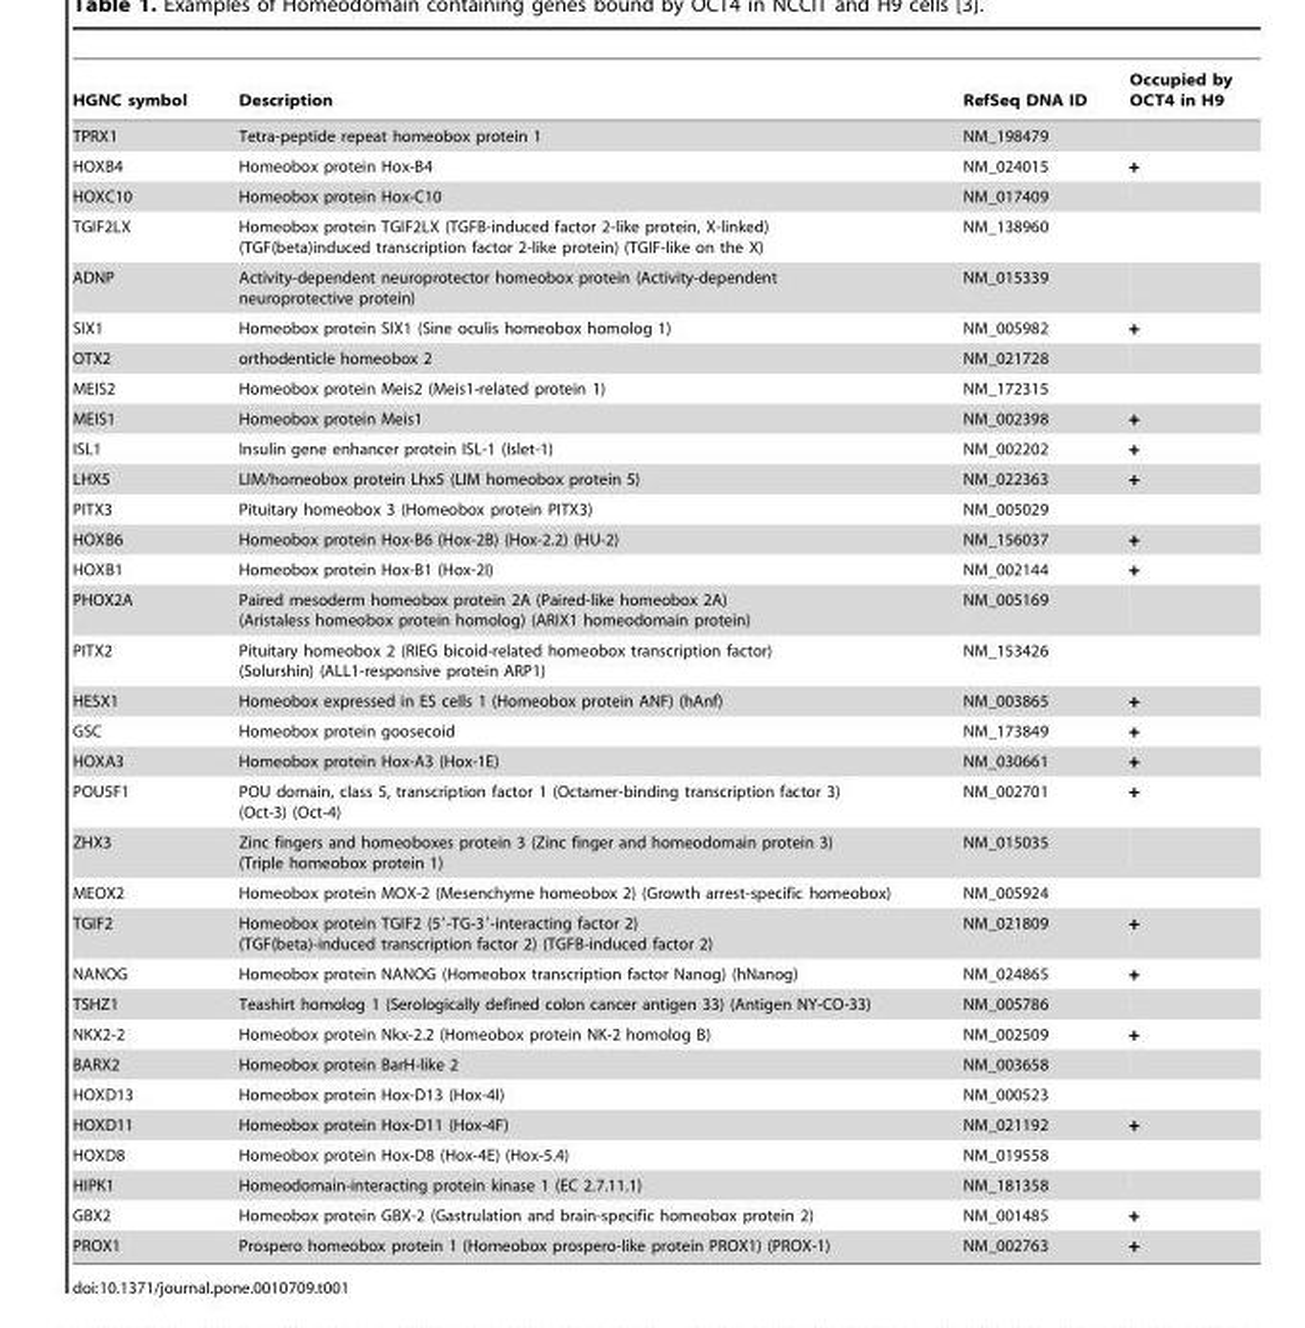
<table><thead><tr><td>HGNC symbol</td><td>Description</td><td>RefSeq DNA ID</td><td>Occupied by OCT4 in H9</td></tr></thead><tbody><tr><td>TPRX1</td><td>Tetra-peptide repeat homeobox protein 1</td><td>NM_198479</td><td></td></tr><tr><td>HOXB4</td><td>Homeobox protein Hox-B4</td><td>NM_024015</td><td>+</td></tr><tr><td>HOXC10</td><td>Homeobox protein Hox-C10</td><td>NM_017409</td><td></td></tr><tr><td>TGIF2LX</td><td>Homeobox protein TGIF2LX (TGFB-induced factor 2-like protein, X-linked) (TGF(beta)induced transcription factor 2-like protein) (TGIF-like on the X)</td><td>NM_138960</td><td></td></tr><tr><td>ADNP</td><td>Activity-dependent neuroprotector homeobox protein (Activity-dependent neuroprotective protein)</td><td>NM_015339</td><td></td></tr><tr><td>SIX1</td><td>Homeobox protein SIX1 (Sine oculis homeobox homolog 1)</td><td>NM_005982</td><td>+</td></tr><tr><td>OTX2</td><td>orthodenticle homeobox 2</td><td>NM_021728</td><td></td></tr><tr><td>MEIS2</td><td>Homeobox protein Meis2 (Meis1-related protein 1)</td><td>NM_172315</td><td></td></tr><tr><td>MEIS1</td><td>Homeobox protein Meis1</td><td>NM_002398</td><td>+</td></tr><tr><td>ISL1</td><td>Insulin gene enhancer protein ISL-1 (Islet-1)</td><td>NM_002202</td><td>+</td></tr><tr><td>LHX5</td><td>LIM/homeobox protein Lhx5 (LIM homeobox protein 5)</td><td>NM_022363</td><td>+</td></tr><tr><td>PITX3</td><td>Pituitary homeobox 3 (Homeobox protein PITX3)</td><td>NM_005029</td><td></td></tr><tr><td>HOXB6</td><td>Homeobox protein Hox-B6 (Hox-2B) (Hox-2.2) (HU-2)</td><td>NM_156037</td><td>+</td></tr><tr><td>HOXB1</td><td>Homeobox protein Hox-B1 (Hox-2I)</td><td>NM_002144</td><td>+</td></tr><tr><td>PHOX2A</td><td>Paired mesoderm homeobox protein 2A (Paired-like homeobox 2A) (Aristaless homeobox protein homolog) (ARIX1 homeodomain protein)</td><td>NM_005169</td><td></td></tr><tr><td>PITX2</td><td>Pituitary homeobox 2 (RIEG bicoid-related homeobox transcription factor) (Solurshin) (ALL1-responsive protein ARP1)</td><td>NM_153426</td><td></td></tr><tr><td>HESX1</td><td>Homeobox expressed in ES cells 1 (Homeobox protein ANF) (hAnf)</td><td>NM_003865</td><td>+</td></tr><tr><td>GSC</td><td>Homeobox protein goosecoid</td><td>NM_173849</td><td>+</td></tr><tr><td>HOXA3</td><td>Homeobox protein Hox-A3 (Hox-1E)</td><td>NM_030661</td><td>+</td></tr><tr><td>POU5F1</td><td>POU domain, class 5, transcription factor 1 (Octamer-binding transcription factor 3) (Oct-3) (Oct-4)</td><td>NM_002701</td><td>+</td></tr><tr><td>ZHX3</td><td>Zinc fingers and homeoboxes protein 3 (Zinc finger and homeodomain protein 3) (Triple homeobox protein 1)</td><td>NM_015035</td><td></td></tr><tr><td>MEOX2</td><td>Homeobox protein MOX-2 (Mesenchyme homeobox 2) (Growth arrest-specific homeobox)</td><td>NM_005924</td><td></td></tr><tr><td>TGIF2</td><td>Homeobox protein TGIF2 (5′-TG-3′-interacting factor 2) (TGF(beta)-induced transcription factor 2) (TGFB-induced factor 2)</td><td>NM_021809</td><td>+</td></tr><tr><td>NANOG</td><td>Homeobox protein NANOG (Homeobox transcription factor Nanog) (hNanog)</td><td>NM_024865</td><td>+</td></tr><tr><td>TSHZ1</td><td>Teashirt homolog 1 (Serologically defined colon cancer antigen 33) (Antigen NY-CO-33)</td><td>NM_005786</td><td></td></tr><tr><td>NKX2-2</td><td>Homeobox protein Nkx-2.2 (Homeobox protein NK-2 homolog B)</td><td>NM_002509</td><td>+</td></tr><tr><td>BARX2</td><td>Homeobox protein BarH-like 2</td><td>NM_003658</td><td></td></tr><tr><td>HOXD13</td><td>Homeobox protein Hox-D13 (Hox-4I)</td><td>NM_000523</td><td></td></tr><tr><td>HOXD11</td><td>Homeobox protein Hox-D11 (Hox-4F)</td><td>NM_021192</td><td>+</td></tr><tr><td>HOXD8</td><td>Homeobox protein Hox-D8 (Hox-4E) (Hox-5.4)</td><td>NM_019558</td><td></td></tr><tr><td>HIPK1</td><td>Homeodomain-interacting protein kinase 1 (EC 2.7.11.1)</td><td>NM_181358</td><td></td></tr><tr><td>GBX2</td><td>Homeobox protein GBX-2 (Gastrulation and brain-specific homeobox protein 2)</td><td>NM_001485</td><td>+</td></tr><tr><td>PROX1</td><td>Prospero homeobox protein 1 (Homeobox prospero-like protein PROX1) (PROX-1)</td><td>NM_002763</td><td>+</td></tr></tbody></table>